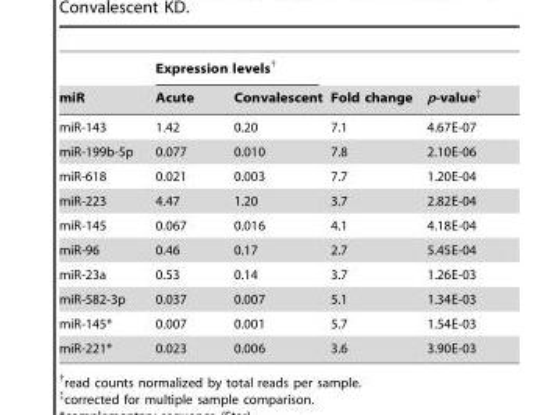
<table><thead><tr><td rowspan="2">miR</td><td colspan="2">Expression levels†</td><td rowspan="2">Fold change</td><td rowspan="2">p-value‡</td></tr><tr><td>Acute</td><td>Convalescent</td></tr></thead><tbody><tr><td>miR-143</td><td>1.42</td><td>0.20</td><td>7.1</td><td>4.67E-07</td></tr><tr><td>miR-199b-5p</td><td>0.077</td><td>0.010</td><td>7.8</td><td>2.10E-06</td></tr><tr><td>miR-618</td><td>0.021</td><td>0.003</td><td>7.7</td><td>1.20E-04</td></tr><tr><td>miR-223</td><td>4.47</td><td>1.20</td><td>3.7</td><td>2.82E-04</td></tr><tr><td>miR-145</td><td>0.067</td><td>0.016</td><td>4.1</td><td>4.18E-04</td></tr><tr><td>miR-96</td><td>0.46</td><td>0.17</td><td>2.7</td><td>5.45E-04</td></tr><tr><td>miR-23a</td><td>0.53</td><td>0.14</td><td>3.7</td><td>1.26E-03</td></tr><tr><td>miR-582-3p</td><td>0.037</td><td>0.007</td><td>5.1</td><td>1.34E-03</td></tr><tr><td>miR-145*</td><td>0.007</td><td>0.001</td><td>5.7</td><td>1.54E-03</td></tr><tr><td>miR-221*</td><td>0.023</td><td>0.006</td><td>3.6</td><td>3.90E-03</td></tr></tbody></table>